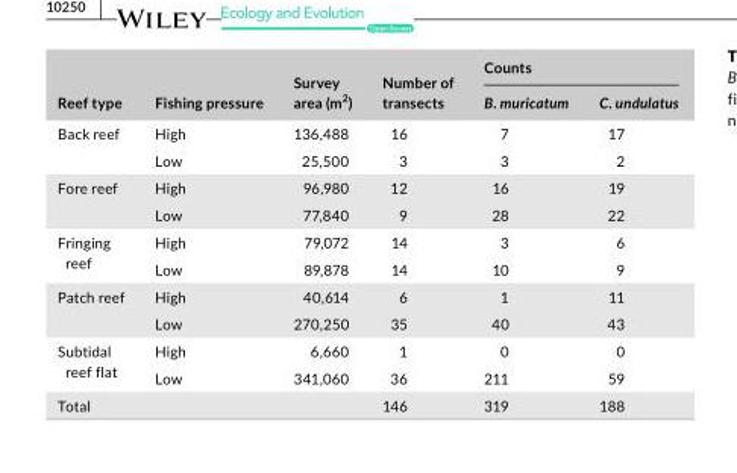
<table><thead><tr><td rowspan="2">Reef type</td><td rowspan="2">Fishing pressure</td><td rowspan="2">Survey area (m<sup>2</sup>)</td><td rowspan="2">Number of transects</td><td colspan="2">Counts</td></tr><tr><td>B. muricatum</td><td>C. undulatus</td></tr></thead><tbody><tr><td rowspan="2">Back reef</td><td>High</td><td>136,488</td><td>16</td><td>7</td><td>17</td></tr><tr><td>Low</td><td>25,500</td><td>3</td><td>3</td><td>2</td></tr><tr><td rowspan="2">Fore reef</td><td>High</td><td>96,980</td><td>12</td><td>16</td><td>19</td></tr><tr><td>Low</td><td>77,840</td><td>9</td><td>28</td><td>22</td></tr><tr><td rowspan="2">Fringing reef</td><td>High</td><td>79,072</td><td>14</td><td>3</td><td>6</td></tr><tr><td>Low</td><td>89,878</td><td>14</td><td>10</td><td>9</td></tr><tr><td rowspan="2">Patch reef</td><td>High</td><td>40,614</td><td>6</td><td>1</td><td>11</td></tr><tr><td>Low</td><td>270,250</td><td>35</td><td>40</td><td>43</td></tr><tr><td rowspan="2">Subtidal reef flat</td><td>High</td><td>6,660</td><td>1</td><td>0</td><td>0</td></tr><tr><td>Low</td><td>341,060</td><td>36</td><td>211</td><td>59</td></tr><tr><td>Total</td><td></td><td></td><td>146</td><td>319</td><td>188</td></tr></tbody></table>